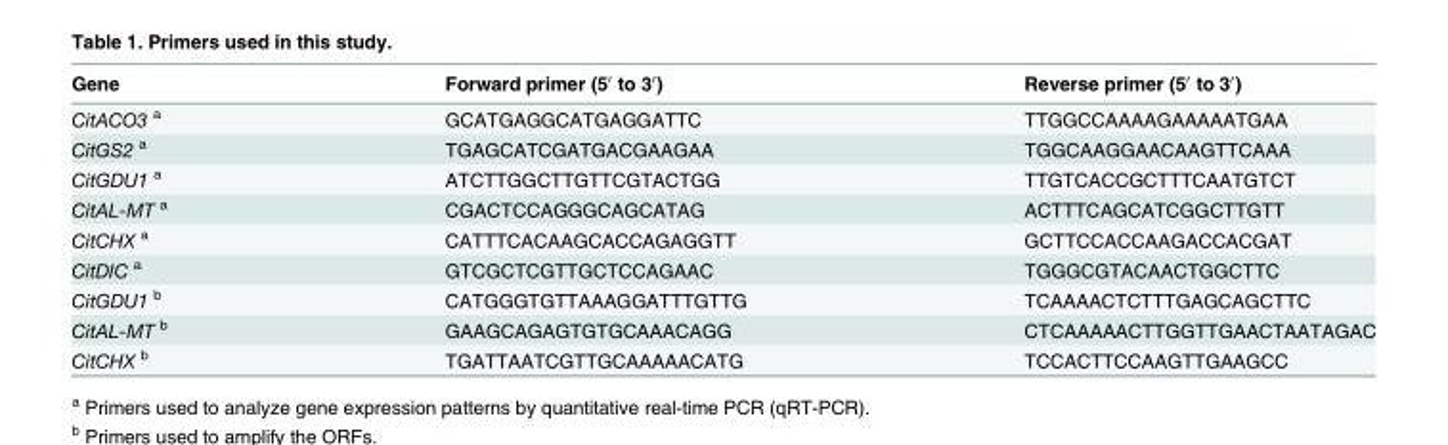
<table><thead><tr><td>Gene</td><td>Forward primer (5′ to 3′)</td><td>Reverse primer (5′ to 3′)</td></tr></thead><tbody><tr><td>CitACO3 <sup>a</sup></td><td>GCATGAGGCATGAGGATTC</td><td>TTGGCCAAAAGAAAAATGAA</td></tr><tr><td>CitGS2 <sup>a</sup></td><td>TGAGCATCGATGACGAAGAA</td><td>TGGCAAGGAACAAGTTCAAA</td></tr><tr><td>CitGDU1 <sup>a</sup></td><td>ATCTTGGCTTGTTCGTACTGG</td><td>TTGTCACCGCTTTCAATGTCT</td></tr><tr><td>CitAL-MT <sup>a</sup></td><td>CGACTCCAGGGCAGCATAG</td><td>ACTTTCAGCATCGGCTTGTT</td></tr><tr><td>CitCHX <sup>a</sup></td><td>CATTTCACAAGCACCAGAGGTT</td><td>GCTTCCACCAAGACCACGAT</td></tr><tr><td>CitDIC <sup>a</sup></td><td>GTCGCTCGTTGCTCCAGAAC</td><td>TGGGCGTACAACTGGCTTC</td></tr><tr><td>CitGDU1 <sup>b</sup></td><td>CATGGGTGTTAAAGGATTTGTTG</td><td>TCAAAACTCTTTGAGCAGCTTC</td></tr><tr><td>CitAL-MT <sup>b</sup></td><td>GAAGCAGAGTGTGCAAACAGG</td><td>CTCAAAAACTTGGTTGAACTAATAGAC</td></tr><tr><td>CitCHX <sup>b</sup></td><td>TGATTAATCGTTGCAAAAACATG</td><td>TCCACTTCCAAGTTGAAGCC</td></tr></tbody></table>